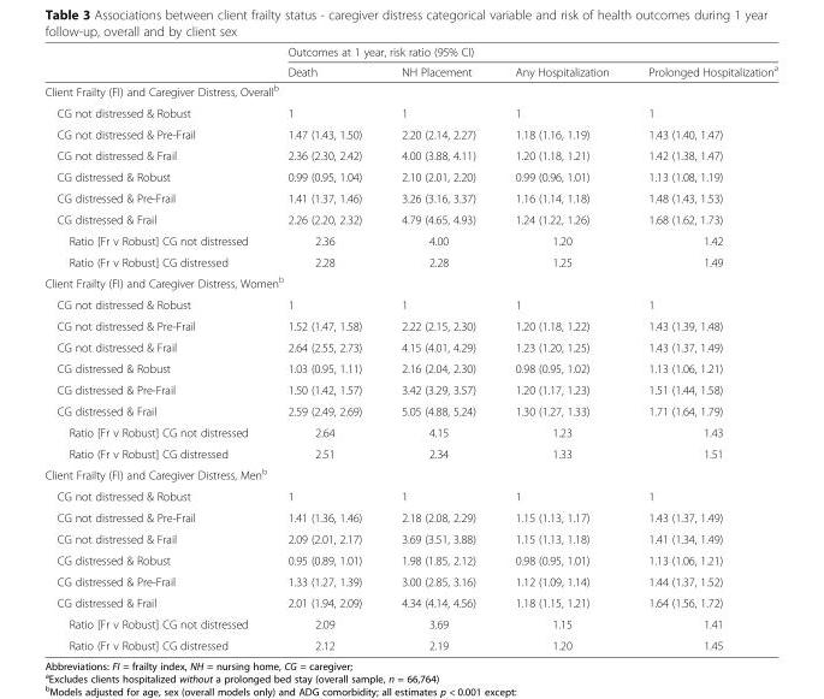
<table><thead><tr><td rowspan="2"></td><td colspan="4">Outcomes at 1 year, risk ratio (95% CI)</td></tr><tr><td>Death</td><td>NH Placement</td><td>Any Hospitalization</td><td>Prolonged Hospitalization<sup>a</sup></td></tr></thead><tbody><tr><td colspan="5">Client Frailty (FI) and Caregiver Distress, Overall<sup>b</sup></td></tr><tr><td>CG not distressed &amp; Robust</td><td>1</td><td>1</td><td>1</td><td>1</td></tr><tr><td>CG not distressed &amp; Pre-Frail</td><td>1.47 (1.43, 1.50)</td><td>2.20 (2.14, 2.27)</td><td>1.18 (1.16, 1.19)</td><td>1.43 (1.40, 1.47)</td></tr><tr><td>CG not distressed &amp; Frail</td><td>2.36 (2.30, 2.42)</td><td>4.00 (3.88, 4.11)</td><td>1.20 (1.18, 1.21)</td><td>1.42 (1.38, 1.47)</td></tr><tr><td>CG distressed &amp; Robust</td><td>0.99 (0.95, 1.04)</td><td>2.10 (2.01, 2.20)</td><td>0.99 (0.96, 1.01)</td><td>1.13 (1.08, 1.19)</td></tr><tr><td>CG distressed &amp; Pre-Frail</td><td>1.41 (1.37, 1.46)</td><td>3.26 (3.16, 3.37)</td><td>1.16 (1.14, 1.18)</td><td>1.48 (1.43, 1.53)</td></tr><tr><td>CG distressed &amp; Frail</td><td>2.26 (2.20, 2.32)</td><td>4.79 (4.65, 4.93)</td><td>1.24 (1.22, 1.26)</td><td>1.68 (1.62, 1.73)</td></tr><tr><td>Ratio [Fr v Robust] CG not distressed</td><td>2.36</td><td>4.00</td><td>1.20</td><td>1.42</td></tr><tr><td>Ratio (Fr v Robust] CG distressed</td><td>2.28</td><td>2.28</td><td>1.25</td><td>1.49</td></tr><tr><td colspan="5">Client Frailty (FI) and Caregiver Distress, Women<sup>b</sup></td></tr><tr><td>CG not distressed &amp; Robust</td><td>1</td><td>1</td><td>1</td><td>1</td></tr><tr><td>CG not distressed &amp; Pre-Frail</td><td>1.52 (1.47, 1.58)</td><td>2.22 (2.15, 2.30)</td><td>1.20 (1.18, 1.22)</td><td>1.43 (1.39, 1.48)</td></tr><tr><td>CG not distressed &amp; Frail</td><td>2.64 (2.55, 2.73)</td><td>4.15 (4.01, 4.29)</td><td>1.23 (1.20, 1.25)</td><td>1.43 (1.37, 1.49)</td></tr><tr><td>CG distressed &amp; Robust</td><td>1.03 (0.95, 1.11)</td><td>2.16 (2.04, 2.30)</td><td>0.98 (0.95, 1.02)</td><td>1.13 (1.06, 1.21)</td></tr><tr><td>CG distressed &amp; Pre-Frail</td><td>1.50 (1.42, 1.57)</td><td>3.42 (3.29, 3.57)</td><td>1.20 (1.17, 1.23)</td><td>1.51 (1.44, 1.58)</td></tr><tr><td>CG distressed &amp; Frail</td><td>2.59 (2.49, 2.69)</td><td>5.05 (4.88, 5.24)</td><td>1.30 (1.27, 1.33)</td><td>1.71 (1.64, 1.79)</td></tr><tr><td>Ratio [Fr v Robust] CG not distressed</td><td>2.64</td><td>4.15</td><td>1.23</td><td>1.43</td></tr><tr><td>Ratio (Fr v Robust] CG distressed</td><td>2.51</td><td>2.34</td><td>1.33</td><td>1.51</td></tr><tr><td colspan="5">Client Frailty (FI) and Caregiver Distress, Men<sup>b</sup></td></tr><tr><td>CG not distressed &amp; Robust</td><td>1</td><td>1</td><td>1</td><td>1</td></tr><tr><td>CG not distressed &amp; Pre-Frail</td><td>1.41 (1.36, 1.46)</td><td>2.18 (2.08, 2.29)</td><td>1.15 (1.13, 1.17)</td><td>1.43 (1.37, 1.49)</td></tr><tr><td>CG not distressed &amp; Frail</td><td>2.09 (2.01, 2.17)</td><td>3.69 (3.51, 3.88)</td><td>1.15 (1.13, 1.18)</td><td>1.41 (1.34, 1.49)</td></tr><tr><td>CG distressed &amp; Robust</td><td>0.95 (0.89, 1.01)</td><td>1.98 (1.85, 2.12)</td><td>0.98 (0.95, 1.01)</td><td>1.13 (1.06, 1.21)</td></tr><tr><td>CG distressed &amp; Pre-Frail</td><td>1.33 (1.27, 1.39)</td><td>3.00 (2.85, 3.16)</td><td>1.12 (1.09, 1.14)</td><td>1.44 (1.37, 1.52)</td></tr><tr><td>CG distressed &amp; Frail</td><td>2.01 (1.94, 2.09)</td><td>4.34 (4.14, 4.56)</td><td>1.18 (1.15, 1.21)</td><td>1.64 (1.56, 1.72)</td></tr><tr><td>Ratio [Fr v Robust] CG not distressed</td><td>2.09</td><td>3.69</td><td>1.15</td><td>1.41</td></tr><tr><td>Ratio (Fr v Robust] CG distressed</td><td>2.12</td><td>2.19</td><td>1.20</td><td>1.45</td></tr></tbody></table>